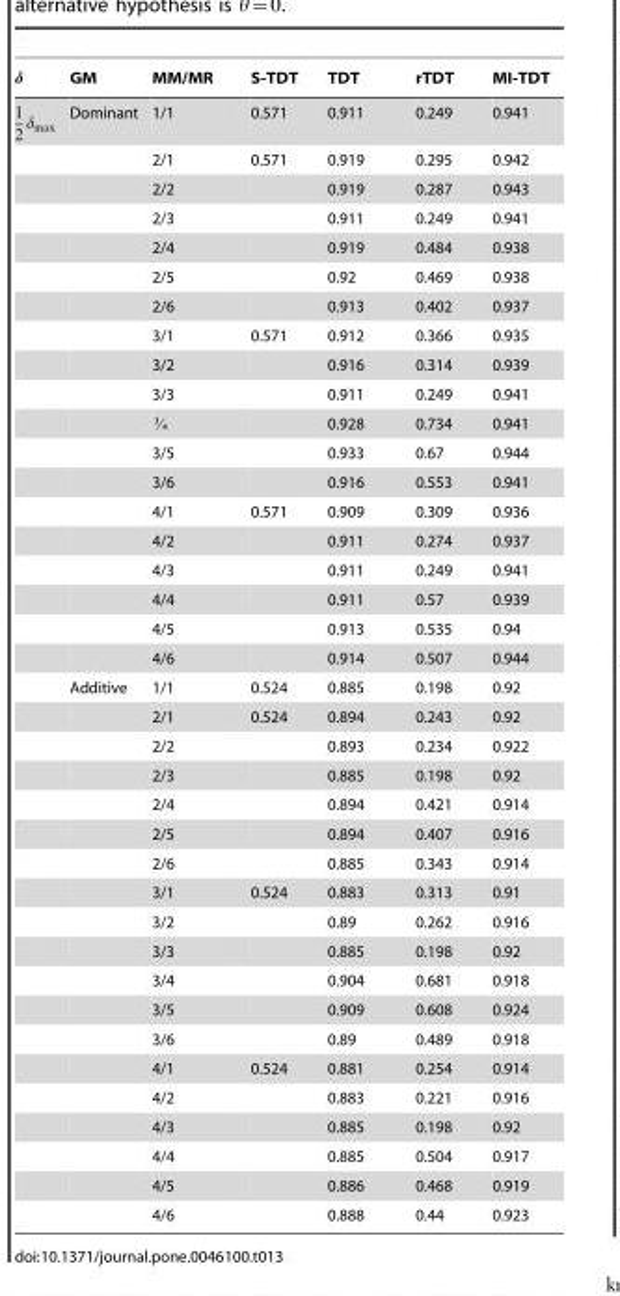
<table><thead><tr><td>GM</td><td>MM/MR</td><td>S-TDT</td><td>TDT</td><td>rTDT</td><td>MI-TDT</td></tr></thead><tbody><tr><td rowspan="19">Dominant</td><td>1/1</td><td>0.571</td><td>0.911</td><td>0.249</td><td>0.941</td></tr><tr><td>2/1</td><td>0.571</td><td>0.919</td><td>0.295</td><td>0.942</td></tr><tr><td>2/2</td><td></td><td>0.919</td><td>0.287</td><td>0.943</td></tr><tr><td>2/3</td><td></td><td>0.911</td><td>0.249</td><td>0.941</td></tr><tr><td>2/4</td><td></td><td>0.919</td><td>0.484</td><td>0.938</td></tr><tr><td>2/5</td><td></td><td>0.92</td><td>0.469</td><td>0.938</td></tr><tr><td>2/6</td><td></td><td>0.913</td><td>0.402</td><td>0.937</td></tr><tr><td>3/1</td><td>0.571</td><td>0.912</td><td>0.366</td><td>0.935</td></tr><tr><td>3/2</td><td></td><td>0.916</td><td>0.314</td><td>0.939</td></tr><tr><td>3/3</td><td></td><td>0.911</td><td>0.249</td><td>0.941</td></tr><tr><td>L</td><td></td><td>0.928</td><td>0.734</td><td>0.941</td></tr><tr><td>3/5</td><td></td><td>0.933</td><td>0.67</td><td>0.944</td></tr><tr><td>3/6</td><td></td><td>0.916</td><td>0.553</td><td>0.941</td></tr><tr><td>4/1</td><td>0.571</td><td>0.909</td><td>0.309</td><td>0.936</td></tr><tr><td>4/2</td><td></td><td>0.911</td><td>0.274</td><td>0.937</td></tr><tr><td>4/3</td><td></td><td>0.911</td><td>0.249</td><td>0.941</td></tr><tr><td>4/4</td><td></td><td>0.911</td><td>0.57</td><td>0.939</td></tr><tr><td>4/5</td><td></td><td>0.913</td><td>0.535</td><td>0.94</td></tr><tr><td>4/6</td><td></td><td>0.914</td><td>0.507</td><td>0.944</td></tr><tr><td rowspan="19">Additive</td><td>1/1</td><td>0.524</td><td>0.885</td><td>0.198</td><td>0.92</td></tr><tr><td>2/1</td><td>0.524</td><td>0.894</td><td>0.243</td><td>0.92</td></tr><tr><td>2/2</td><td></td><td>0.893</td><td>0.234</td><td>0.922</td></tr><tr><td>2/3</td><td></td><td>0.885</td><td>0.198</td><td>0.92</td></tr><tr><td>2/4</td><td></td><td>0.894</td><td>0.421</td><td>0.914</td></tr><tr><td>2/5</td><td></td><td>0.894</td><td>0.407</td><td>0.916</td></tr><tr><td>2/6</td><td></td><td>0.885</td><td>0.343</td><td>0.914</td></tr><tr><td>3/1</td><td>0.524</td><td>0.883</td><td>0.313</td><td>0.91</td></tr><tr><td>3/2</td><td></td><td>0.89</td><td>0.262</td><td>0.916</td></tr><tr><td>3/3</td><td></td><td>0.885</td><td>0.198</td><td>0.92</td></tr><tr><td>3/4</td><td></td><td>0.904</td><td>0.681</td><td>0.918</td></tr><tr><td>3/5</td><td></td><td>0.909</td><td>0.608</td><td>0.924</td></tr><tr><td>3/6</td><td></td><td>0.89</td><td>0.489</td><td>0.918</td></tr><tr><td>4/1</td><td>0.524</td><td>0.881</td><td>0.254</td><td>0.914</td></tr><tr><td>4/2</td><td></td><td>0.883</td><td>0.221</td><td>0.916</td></tr><tr><td>4/3</td><td></td><td>0.885</td><td>0.198</td><td>0.92</td></tr><tr><td>4/4</td><td></td><td>0.885</td><td>0.504</td><td>0.917</td></tr><tr><td>4/5</td><td></td><td>0.886</td><td>0.468</td><td>0.919</td></tr><tr><td>4/6</td><td></td><td>0.888</td><td>0.44</td><td>0.923</td></tr></tbody></table>